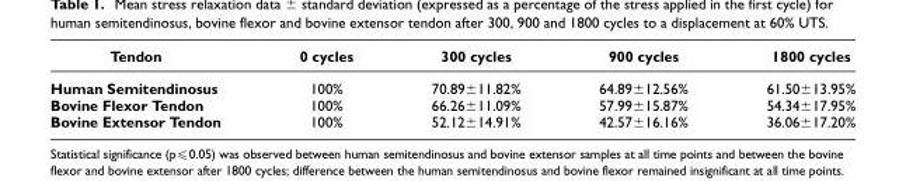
<table><thead><tr><td>Tendon</td><td>0 cycles</td><td>300 cycles</td><td>900 cycles</td><td>1800 cycles</td></tr></thead><tbody><tr><td>Human Semitendinosus</td><td>100%</td><td>70.89±11.82%</td><td>64.89±12.56%</td><td>61.50±13.95%</td></tr><tr><td>Bovine Flexor Tendon</td><td>100%</td><td>66.26±11.09%</td><td>57.99±15.87%</td><td>54.34±17.95%</td></tr><tr><td>Bovine Extensor Tendon</td><td>100%</td><td>52.12±14.91%</td><td>42.57±16.16%</td><td>36.06±17.20%</td></tr></tbody></table>